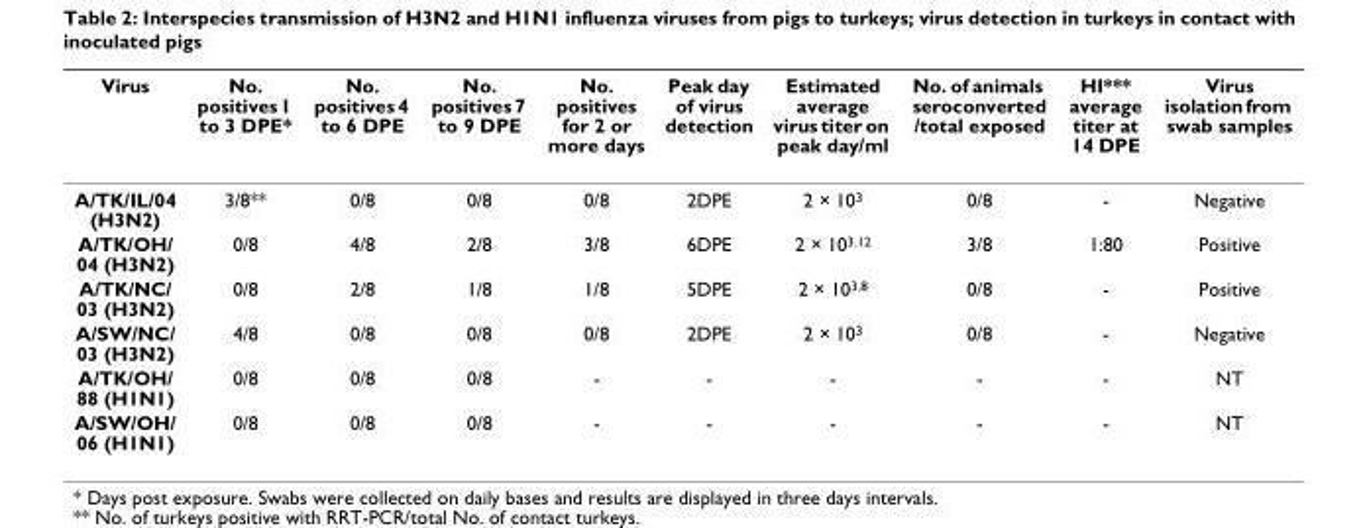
<table><thead><tr><td>Virus</td><td>No. positives 1 to 3 DPE*</td><td>No. positives 4 to 6 DPE</td><td>No. positives 7 to 9 DPE</td><td>No. positives for 2 or more days</td><td>Peak day of virus detection</td><td>Estimated average virus titer on peak day/ml</td><td>No. of animals seroconverted /total exposed</td><td>HI*** average titer at 14 DPE</td><td>Virus isolation from swab samples</td></tr></thead><tbody><tr><td>A/TK/IL/04 (H3N2)</td><td>3/8**</td><td>0/8</td><td>0/8</td><td>0/8</td><td>2DPE</td><td>2 × 10<sup>3</sup></td><td>0/8</td><td>-</td><td>Negative</td></tr><tr><td>A/TK/OH/ 04 (H3N2)</td><td>0/8</td><td>4/8</td><td>2/8</td><td>3/8</td><td>6DPE</td><td>2 × 10<sup>3.12</sup></td><td>3/8</td><td>1:80</td><td>Positive</td></tr><tr><td>A/TK/NC/ 03 (H3N2)</td><td>0/8</td><td>2/8</td><td>1/8</td><td>1/8</td><td>5DPE</td><td>2 × 10<sup>3.8</sup></td><td>0/8</td><td>-</td><td>Positive</td></tr><tr><td>A/SW/NC/ 03 (H3N2)</td><td>4/8</td><td>0/8</td><td>0/8</td><td>0/8</td><td>2DPE</td><td>2 × 10<sup>3</sup></td><td>0/8</td><td>-</td><td>Negative</td></tr><tr><td>A/TK/OH/ 88 (H1N1)</td><td>0/8</td><td>0/8</td><td>0/8</td><td>-</td><td>-</td><td>-</td><td>-</td><td>-</td><td>NT</td></tr><tr><td>A/SW/OH/ 06 (H1N1)</td><td>0/8</td><td>0/8</td><td>0/8</td><td>-</td><td>-</td><td>-</td><td>-</td><td>-</td><td>NT</td></tr></tbody></table>